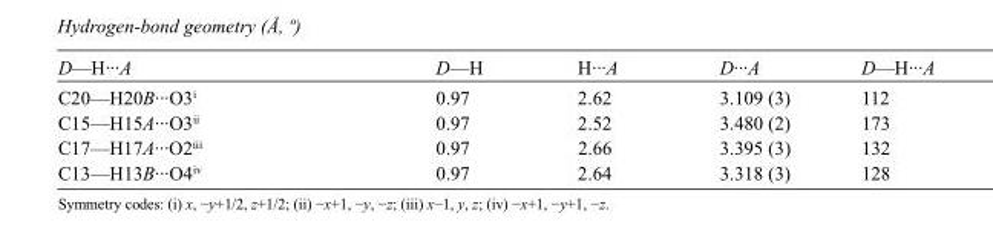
<table><tbody><tr><td>D—H···A</td><td>D—H</td><td>H···A</td><td>D···A</td><td>D—H···A</td></tr><tr><td>C20—H20B···O3<sup>i</sup></td><td>0.97</td><td>2.62</td><td>3.109 (3)</td><td>112</td></tr><tr><td>C15—H15A···O3<sup>ii</sup></td><td>0.97</td><td>2.52</td><td>3.480 (2)</td><td>173</td></tr><tr><td>C17—H17A···O2<sup>iii</sup></td><td>0.97</td><td>2.66</td><td>3.395 (3)</td><td>132</td></tr><tr><td>C13—H13B···O4<sup>iv</sup></td><td>0.97</td><td>2.64</td><td>3.318 (3)</td><td>128</td></tr></tbody></table>